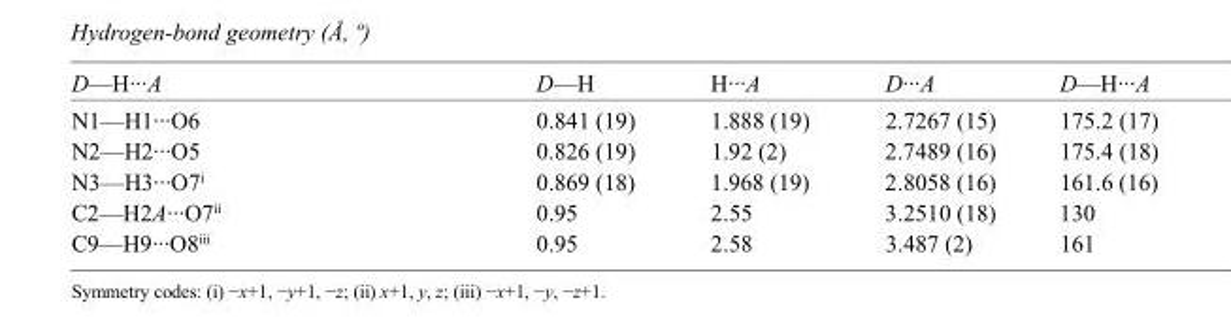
<table><tbody><tr><td>D—H···A</td><td>D—H</td><td>H···A</td><td>D···A</td><td>D—H···A</td></tr><tr><td>N1—H1···O6</td><td>0.841 (19)</td><td>1.888 (19)</td><td>2.7267 (15)</td><td>175.2 (17)</td></tr><tr><td>N2—H2···O5</td><td>0.826 (19)</td><td>1.92 (2)</td><td>2.7489 (16)</td><td>175.4 (18)</td></tr><tr><td>N3—H3···O7<sup>i</sup></td><td>0.869 (18)</td><td>1.968 (19)</td><td>2.8058 (16)</td><td>161.6 (16)</td></tr><tr><td>C2—H2A···O7<sup>ii</sup></td><td>0.95</td><td>2.55</td><td>3.2510 (18)</td><td>130</td></tr><tr><td>C9—H9···O8<sup>iii</sup></td><td>0.95</td><td>2.58</td><td>3.487 (2)</td><td>161</td></tr></tbody></table>